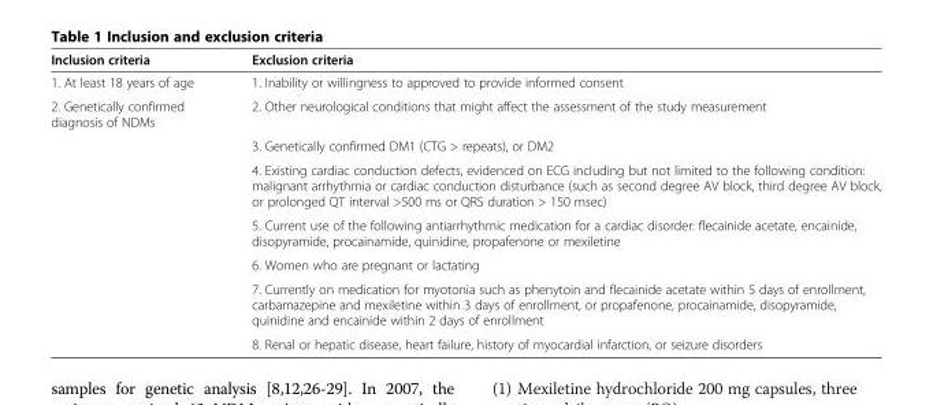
<table><thead><tr><td>Inclusion criteria</td><td>Exclusion criteria</td></tr></thead><tbody><tr><td>1. At least 18 years of age</td><td>1. Inability or willingness to approved to provide informed consent</td></tr><tr><td rowspan="7">2. Genetically confirmed diagnosis of NDMs</td><td>2. Other neurological conditions that might affect the assessment of the study measurement</td></tr><tr><td>3. Genetically confirmed DM1 (CTG &gt; repeats), or DM2</td></tr><tr><td>4. Existing cardiac conduction defects, evidenced on ECG including but not limited to the following condition: malignant arrhythmia or cardiac conduction disturbance (such as second degree AV block, third degree AV block, or prolonged QT interval &gt;500 ms or QRS duration &gt; 150 msec)</td></tr><tr><td>5. Current use of the following antiarrhythmic medication for a cardiac disorder: flecainide acetate, encainide, disopyramide, procainamide, quinidine, propafenone or mexiletine</td></tr><tr><td>6. Women who are pregnant or lactating</td></tr><tr><td>7. Currently on medication for myotonia such as phenytoin and flecainide acetate within 5 days of enrollment, carbamazepine and mexiletine within 3 days of enrollment, or propafenone, procainamide, disopyramide, quinidine and encainide within 2 days of enrollment</td></tr><tr><td>8. Renal or hepatic disease, heart failure, history of myocardial infarction, or seizure disorders</td></tr></tbody></table>